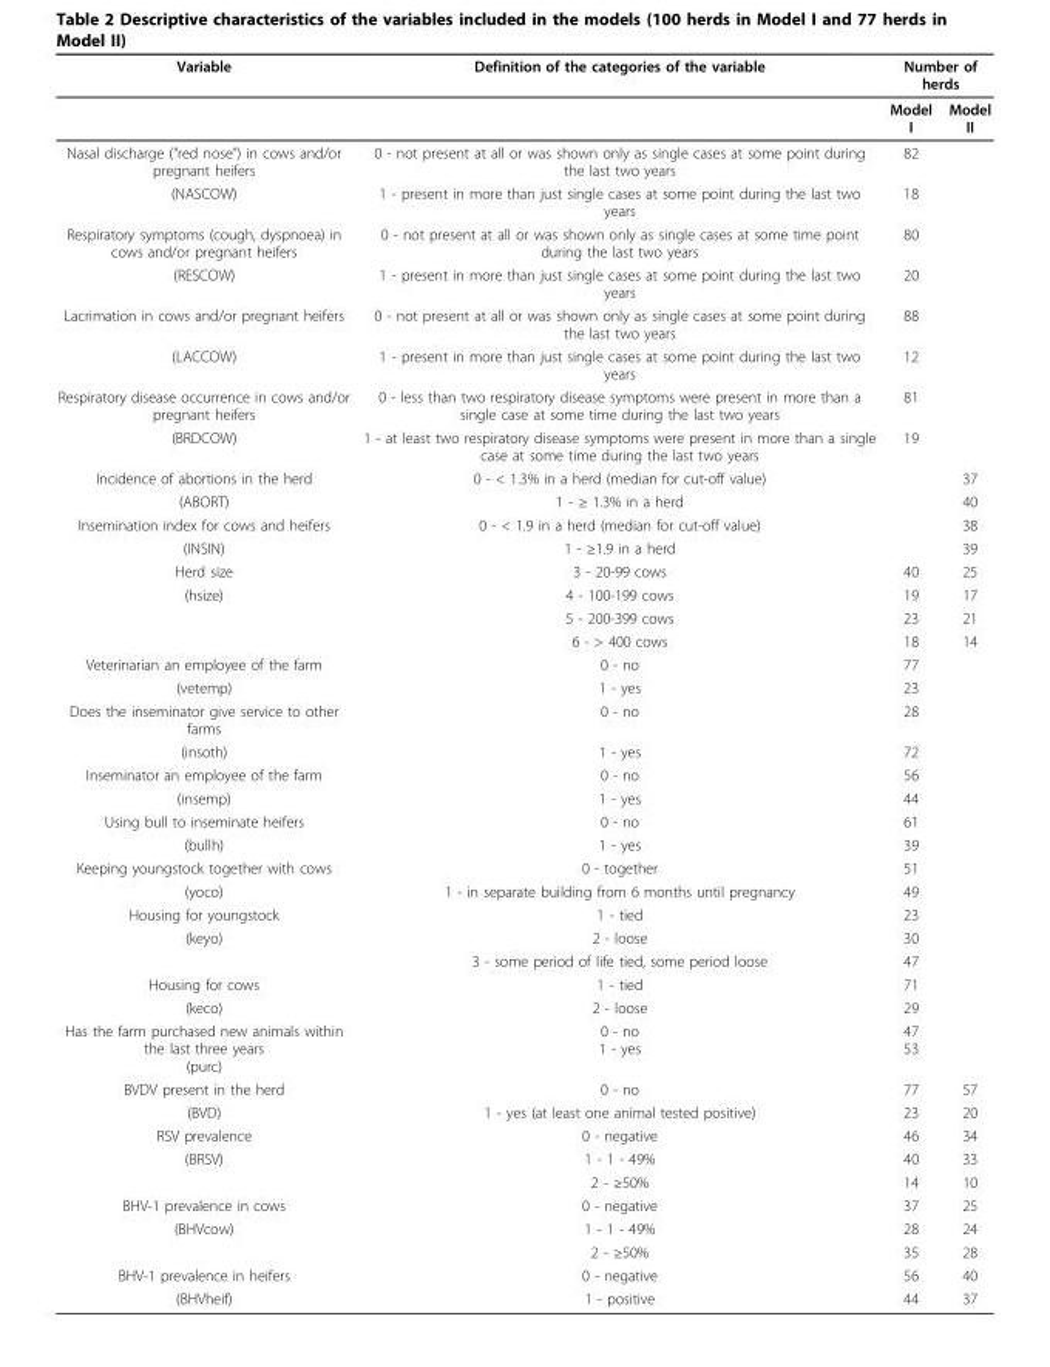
<table><thead><tr><td rowspan="2">Variable</td><td rowspan="2">Definition of the categories of the variable</td><td colspan="2">Number of herds</td></tr><tr><td>Model I</td><td>Model II</td></tr></thead><tbody><tr><td>Nasal discharge (&quot;red nose”) in cows and/or pregnant heifers</td><td>0 - not present at all or was shown only as single cases at some point during the last two years</td><td>82</td><td></td></tr><tr><td>(NASCOW)</td><td>1 - present in more than just single cases at some point during the last two years</td><td>18</td><td></td></tr><tr><td>Respiratory symptoms (cough, dyspnoea) in cows and/or pregnant heifers</td><td>0 - not present at all or was shown only as single cases at some time point during the last two years</td><td>80</td><td></td></tr><tr><td>(RESCOW)</td><td>1 - present in more than just single cases at some point during the last two years</td><td>20</td><td></td></tr><tr><td>Lacrimation in cows and/or pregnant heifers</td><td>0 - not present at all or was shown only as single cases at some point during the last two years</td><td>88</td><td></td></tr><tr><td>(LACCOW)</td><td>1 - present in more than just single cases at some point during the last two years</td><td>12</td><td></td></tr><tr><td>Respiratory disease occurrence in cows and/or pregnant heifers</td><td>0 - less than two respiratory disease symptoms were present in more than a single case at some time during the last two years</td><td>81</td><td></td></tr><tr><td>(BRDCOW)</td><td>1 - at least two respiratory disease symptoms were present in more than a single case at some time during the last two years</td><td>19</td><td></td></tr><tr><td>Incidence of abortions in the herd</td><td>0 - &lt; 1.3% in a herd (median for cut-off value)</td><td></td><td>37</td></tr><tr><td>(ABORT)</td><td>1 - ≥ 1.3% in a herd</td><td></td><td>40</td></tr><tr><td>Insemination index for cows and heifers</td><td>0 - &lt; 1.9 in a herd (median for cut-off value)</td><td></td><td>38</td></tr><tr><td>(INSIN)</td><td>1 - ≥1.9 in a herd</td><td></td><td>39</td></tr><tr><td>Herd size</td><td>3 - 20-99 cows</td><td>40</td><td>25</td></tr><tr><td rowspan="3">(hsize)</td><td>4 - 100-199 cows</td><td>19</td><td>17</td></tr><tr><td>5 - 200-399 cows</td><td>23</td><td>21</td></tr><tr><td>6 - &gt; 400 cows</td><td>18</td><td>14</td></tr><tr><td>Veterinarian an employee of the farm</td><td>0 - no</td><td>77</td><td></td></tr><tr><td>(vetemp)</td><td>1 - yes</td><td>23</td><td></td></tr><tr><td>Does the inseminator give service to other farms</td><td>0 - no</td><td>28</td><td></td></tr><tr><td>(insoth)</td><td>1 - yes</td><td>72</td><td></td></tr><tr><td>Inseminator an employee of the farm</td><td>0 - no</td><td>56</td><td></td></tr><tr><td>(insemp)</td><td>1 - yes</td><td>44</td><td></td></tr><tr><td>Using bull to inseminate heifers</td><td>0 - no</td><td>61</td><td></td></tr><tr><td>(bullh)</td><td>1 - yes</td><td>39</td><td></td></tr><tr><td>Keeping youngstock together with cows</td><td>0 - together</td><td>51</td><td></td></tr><tr><td>(yoco)</td><td>1 - in separate building from 6 months until pregnancy</td><td>49</td><td></td></tr><tr><td>Housing for youngstock</td><td>1 - tied</td><td>23</td><td></td></tr><tr><td rowspan="2">(keyo)</td><td>2 - loose</td><td>30</td><td></td></tr><tr><td>3 - some period of life tied, some period loose</td><td>47</td><td></td></tr><tr><td>Housing for cows</td><td>1 - tied</td><td>71</td><td></td></tr><tr><td>(keco)</td><td>2 - loose</td><td>29</td><td></td></tr><tr><td>Has the farm purchased new animals within the last three years (purc)</td><td>0 - no 1 - yes</td><td>47 53</td><td></td></tr><tr><td>BVDV present in the herd</td><td>0 - no</td><td>77</td><td>57</td></tr><tr><td>(BVD)</td><td>1 - yes (at least one animal tested positive)</td><td>23</td><td>20</td></tr><tr><td>RSV prevalence</td><td>0 - negative</td><td>46</td><td>34</td></tr><tr><td rowspan="2">(BRSV)</td><td>1 - 1 - 49%</td><td>40</td><td>33</td></tr><tr><td>2 - ≥50%</td><td>14</td><td>10</td></tr><tr><td>BHV-1 prevalence in cows</td><td>0 - negative</td><td>37</td><td>25</td></tr><tr><td rowspan="2">(BHVcow)</td><td>1 - 1 - 49%</td><td>28</td><td>24</td></tr><tr><td>2 - ≥50%</td><td>35</td><td>28</td></tr><tr><td>BHV-1 prevalence in heifers</td><td>0 - negative</td><td>56</td><td>40</td></tr><tr><td>(BHVheif)</td><td>1 - positive</td><td>44</td><td>37</td></tr></tbody></table>